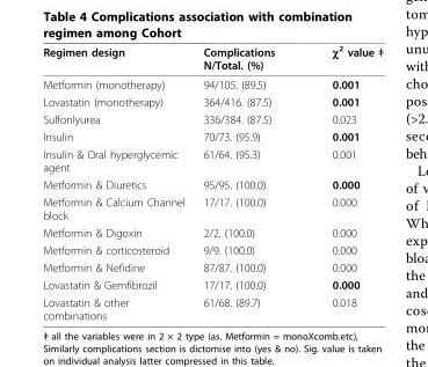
<table><thead><tr><td>Regimen design</td><td>Complications N/Total. (%)</td><td>χ<sup>2</sup> value ǂ</td></tr></thead><tbody><tr><td>Metformin (monotherapy)</td><td>94/105. (89.5)</td><td>0.001</td></tr><tr><td>Lovastatin (monotherapy)</td><td>364/416. (87.5)</td><td>0.001</td></tr><tr><td>Sulfonlyurea</td><td>336/384. (87.5)</td><td>0.023</td></tr><tr><td>Insulin</td><td>70/73. (95.9)</td><td>0.001</td></tr><tr><td>Insulin &amp; Oral hyperglycemic agent</td><td>61/64. (95.3)</td><td>0.001</td></tr><tr><td>Metformin &amp; Diuretics</td><td>95/95. (100.0)</td><td>0.000</td></tr><tr><td>Metformin &amp; Calcium Channel block</td><td>17/17. (100.0)</td><td>0.000</td></tr><tr><td>Metformin &amp; Digoxin</td><td>2/2. (100.0)</td><td>0.000</td></tr><tr><td>Metformin &amp; corticosteroid</td><td>9/9. (100.0)</td><td>0.000</td></tr><tr><td>Metformin &amp; Nefidine</td><td>87/87. (100.0)</td><td>0.000</td></tr><tr><td>Lovastatin &amp; Gemfibrozil</td><td>17/17. (100.0)</td><td>0.000</td></tr><tr><td>Lovastatin &amp; other combinations</td><td>61/68. (89.7)</td><td>0.018</td></tr></tbody></table>